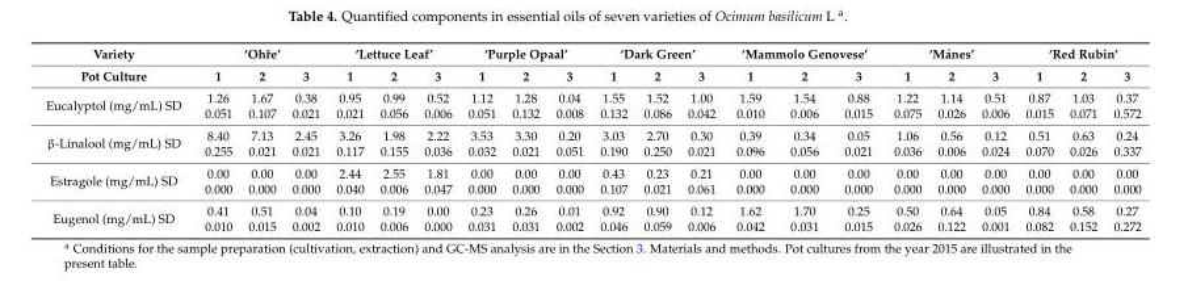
<table><thead><tr><td rowspan="2">Variety Pot Culture</td><td colspan="3">‘Ohˇre’</td><td colspan="3">‘Lettuce Leaf’</td><td colspan="3">‘Purple Opaal’</td><td colspan="3">‘Dark Green’</td><td colspan="3">‘Mammolo Genovese’</td><td colspan="3">‘Mánes’</td><td colspan="3">‘Red Rubin’</td></tr><tr><td>1</td><td>2</td><td>3</td><td>1</td><td>2</td><td>3</td><td>1</td><td>2</td><td>3</td><td>1</td><td>2</td><td>3</td><td>1</td><td>2</td><td>3</td><td>1</td><td>2</td><td>3</td><td>1</td><td>2</td><td>3</td></tr></thead><tbody><tr><td rowspan="2">Eucalyptol (mg/mL) SD</td><td>1.26</td><td>1.67</td><td>0.38</td><td>0.95</td><td>0.99</td><td>0.52</td><td>1.12</td><td>1.28</td><td>0.04</td><td>1.55</td><td>1.52</td><td>1.00</td><td>1.59</td><td>1.54</td><td>0.88</td><td>1.22</td><td>1.14</td><td>0.51</td><td>0.87</td><td>1.03</td><td>0.37</td></tr><tr><td>0.051</td><td>0.107</td><td>0.021</td><td>0.021</td><td>0.056</td><td>0.006</td><td>0.051</td><td>0.132</td><td>0.008</td><td>0.132</td><td>0.086</td><td>0.042</td><td>0.010</td><td>0.006</td><td>0.015</td><td>0.075</td><td>0.026</td><td>0.006</td><td>0.015</td><td>0.071</td><td>0.572</td></tr><tr><td rowspan="2">β-Linalool (mg/mL) SD</td><td>8.40</td><td>7.13</td><td>2.45</td><td>3.26</td><td>1.98</td><td>2.22</td><td>3.53</td><td>3.30</td><td>0.20</td><td>3.03</td><td>2.70</td><td>0.30</td><td>0.39</td><td>0.34</td><td>0.05</td><td>1.06</td><td>0.56</td><td>0.12</td><td>0.51</td><td>0.63</td><td>0.24</td></tr><tr><td>0.255</td><td>0.021</td><td>0.021</td><td>0.117</td><td>0.155</td><td>0.036</td><td>0.032</td><td>0.021</td><td>0.051</td><td>0.190</td><td>0.250</td><td>0.021</td><td>0.096</td><td>0.056</td><td>0.021</td><td>0.036</td><td>0.006</td><td>0.024</td><td>0.070</td><td>0.026</td><td>0.337</td></tr><tr><td rowspan="2">Estragole (mg/mL) SD</td><td>0.00</td><td>0.00</td><td>0.00</td><td>2.44</td><td>2.55</td><td>1.81</td><td>0.00</td><td>0.00</td><td>0.00</td><td>0.43</td><td>0.23</td><td>0.21</td><td>0.00</td><td>0.00</td><td>0.00</td><td>0.00</td><td>0.00</td><td>0.00</td><td>0.00</td><td>0.00</td><td>0.00</td></tr><tr><td>0.000</td><td>0.000</td><td>0.000</td><td>0.040</td><td>0.006</td><td>0.047</td><td>0.000</td><td>0.000</td><td>0.000</td><td>0.107</td><td>0.021</td><td>0.061</td><td>0.000</td><td>0.000</td><td>0.000</td><td>0.000</td><td>0.000</td><td>0.000</td><td>0.000</td><td>0.000</td><td>0.000</td></tr><tr><td rowspan="2">Eugenol (mg/mL) SD</td><td>0.41</td><td>0.51</td><td>0.04</td><td>0.10</td><td>0.19</td><td>0.00</td><td>0.23</td><td>0.26</td><td>0.01</td><td>0.92</td><td>0.90</td><td>0.12</td><td>1.62</td><td>1.70</td><td>0.25</td><td>0.50</td><td>0.64</td><td>0.05</td><td>0.84</td><td>0.58</td><td>0.27</td></tr><tr><td>0.010</td><td>0.015</td><td>0.002</td><td>0.010</td><td>0.006</td><td>0.000</td><td>0.031</td><td>0.031</td><td>0.002</td><td>0.046</td><td>0.059</td><td>0.006</td><td>0.042</td><td>0.031</td><td>0.015</td><td>0.026</td><td>0.122</td><td>0.001</td><td>0.082</td><td>0.152</td><td>0.272</td></tr></tbody></table>